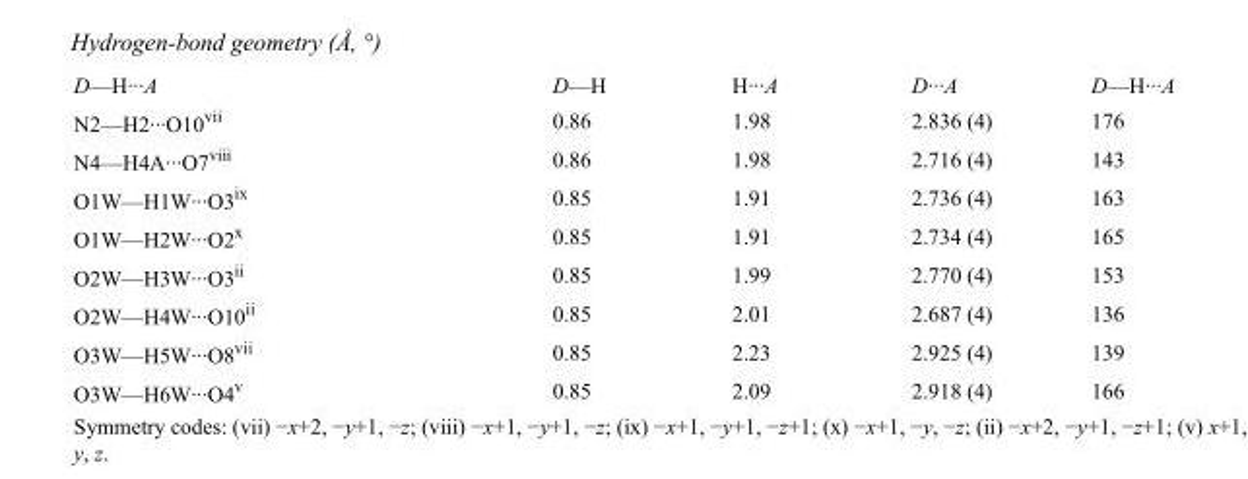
<table><tbody><tr><td>D—H···A</td><td>D—H</td><td>H···A</td><td>D···A</td><td>D—H···A</td></tr><tr><td>N2—H2···O10<sup>vii</sup></td><td>0.86</td><td>1.98</td><td>2.836 (4)</td><td>176</td></tr><tr><td>N4—H4A···O7<sup>viii</sup></td><td>0.86</td><td>1.98</td><td>2.716 (4)</td><td>143</td></tr><tr><td>O1W—H1W···O3<sup>ix</sup></td><td>0.85</td><td>1.91</td><td>2.736 (4)</td><td>163</td></tr><tr><td>O1W—H2W···O2<sup>x</sup></td><td>0.85</td><td>1.91</td><td>2.734 (4)</td><td>165</td></tr><tr><td>O2W—H3W···O3<sup>ii</sup></td><td>0.85</td><td>1.99</td><td>2.770 (4)</td><td>153</td></tr><tr><td>O2W—H4W···O10<sup>ii</sup></td><td>0.85</td><td>2.01</td><td>2.687 (4)</td><td>136</td></tr><tr><td>O3W—H5W···O8<sup>vii</sup></td><td>0.85</td><td>2.23</td><td>2.925 (4)</td><td>139</td></tr><tr><td>O3W—H6W···O4<sup>v</sup></td><td>0.85</td><td>2.09</td><td>2.918 (4)</td><td>166</td></tr></tbody></table>